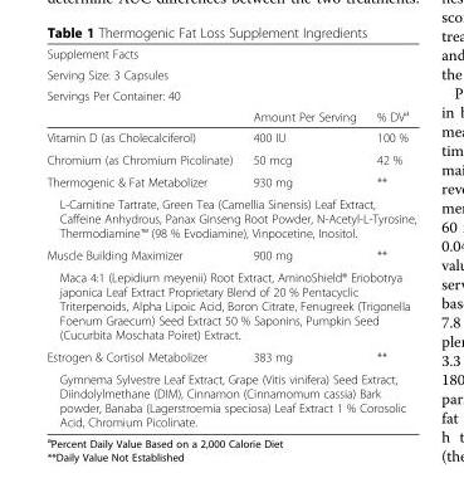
<table><thead><tr><td rowspan="4">Supplement Facts Serving Size: 3 Capsules Servings Per Container: 40</td><td rowspan="4">Amount Per Serving</td><td rowspan="4">% DV<sup>a</sup></td></tr><tr></tr><tr></tr><tr></tr></thead><tbody><tr><td>Vitamin D (as Cholecalciferol)</td><td>400 IU</td><td>100 %</td></tr><tr><td>Chromium (as Chromium Picolinate)</td><td>50 mcg</td><td>42 %</td></tr><tr><td>Thermogenic &amp; Fat Metabolizer</td><td>930 mg</td><td>**</td></tr><tr><td colspan="3">L-Carnitine Tartrate, Green Tea (Camellia Sinensis) Leaf Extract, Caffeine Anhydrous, Panax Ginseng Root Powder, N-Acetyl-L-Tyrosine, Thermodiamine™ (98 % Evodiamine), Vinpocetine, Inositol.</td></tr><tr><td>Muscle Building Maximizer</td><td>900 mg</td><td>**</td></tr><tr><td colspan="3">Maca 4:1 (Lepidium meyenii) Root Extract, AminoShield® Eriobotrya japonica Leaf Extract Proprietary Blend of 20 % Pentacyclic Triterpenoids, Alpha Lipoic Acid, Boron Citrate, Fenugreek (Trigonella Foenum Graecum) Seed Extract 50 % Saponins, Pumpkin Seed (Cucurbita Moschata Poiret) Extract.</td></tr><tr><td>Estrogen &amp; Cortisol Metabolizer</td><td>383 mg</td><td>**</td></tr><tr><td colspan="3">Gymnema Sylvestre Leaf Extract, Grape (Vitis vinifera) Seed Extract, Diindolylmethane (DIM), Cinnamon (Cinnamomum cassia) Bark powder, Banaba (Lagerstroemia speciosa) Leaf Extract 1 % Corosolic Acid, Chromium Picolinate.</td></tr></tbody></table>